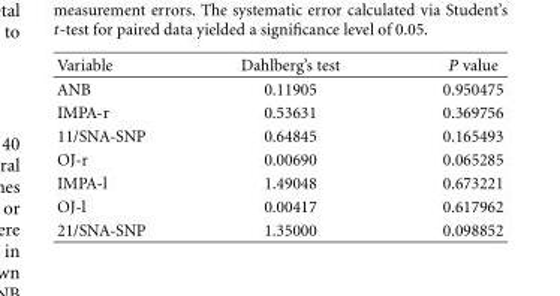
<table><thead><tr><td>Variable</td><td>Dahlberg’s test</td><td>P value</td></tr></thead><tbody><tr><td>ANB</td><td>0.11905</td><td>0.950475</td></tr><tr><td>IMPA-r</td><td>0.53631</td><td>0.369756</td></tr><tr><td>11/SNA-SNP</td><td>0.64845</td><td>0.165493</td></tr><tr><td>OJ-r</td><td>0.00690</td><td>0.065285</td></tr><tr><td>IMPA-l</td><td>1.49048</td><td>0.673221</td></tr><tr><td>OJ-l</td><td>0.00417</td><td>0.617962</td></tr><tr><td>21/SNA-SNP</td><td>1.35000</td><td>0.098852</td></tr></tbody></table>